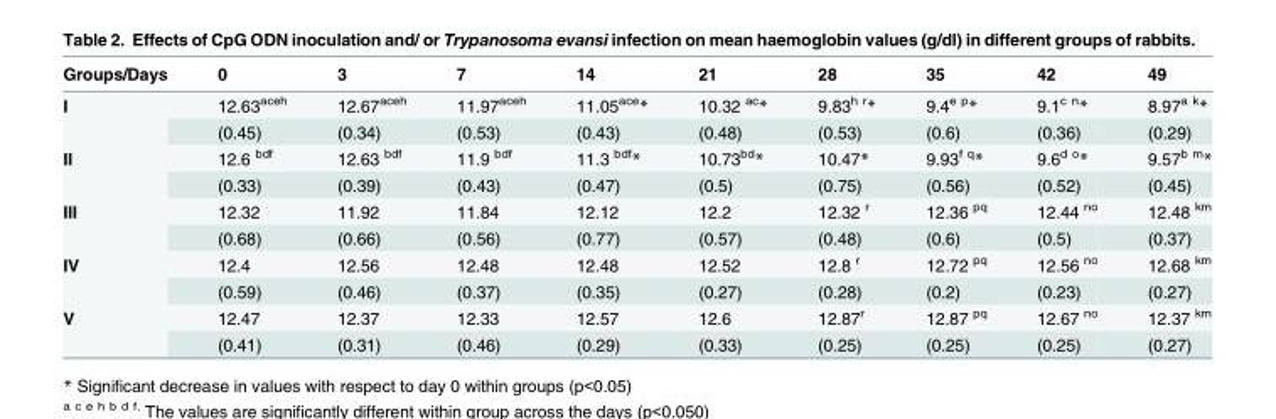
<table><thead><tr><td>Groups/Days</td><td>0</td><td>3</td><td>7</td><td>14</td><td>21</td><td>28</td><td>35</td><td>42</td><td>49</td></tr></thead><tbody><tr><td rowspan="2">I</td><td>12.63<sup>aceh</sup></td><td>12.67<sup>aceh</sup></td><td>11.97<sup>aceh</sup></td><td>11.05<sup>ace</sup>*</td><td>10.32 <sup>ac</sup>*</td><td>9.83<sup>h r</sup>*</td><td>9.4<sup>e p</sup>*</td><td>9.1<sup>c n</sup>*</td><td>8.97<sup>a k</sup>*</td></tr><tr><td>(0.45)</td><td>(0.34)</td><td>(0.53)</td><td>(0.43)</td><td>(0.48)</td><td>(0.53)</td><td>(0.6)</td><td>(0.36)</td><td>(0.29)</td></tr><tr><td rowspan="2">II</td><td>12.6 <sup>bdf</sup></td><td>12.63 <sup>bdf</sup></td><td>11.9 <sup>bdf</sup></td><td>11.3 <sup>bdf</sup>*</td><td>10.73<sup>bd</sup>*</td><td>10.47*</td><td>9.93<sup>f q</sup>*</td><td>9.6<sup>d o</sup>*</td><td>9.57<sup>b m</sup>*</td></tr><tr><td>(0.33)</td><td>(0.39)</td><td>(0.43)</td><td>(0.47)</td><td>(0.5)</td><td>(0.75)</td><td>(0.56)</td><td>(0.52)</td><td>(0.45)</td></tr><tr><td rowspan="2">III</td><td>12.32</td><td>11.92</td><td>11.84</td><td>12.12</td><td>12.2</td><td>12.32 <sup>r</sup></td><td>12.36 <sup>pq</sup></td><td>12.44 <sup>no</sup></td><td>12.48 <sup>km</sup></td></tr><tr><td>(0.68)</td><td>(0.66)</td><td>(0.56)</td><td>(0.77)</td><td>(0.57)</td><td>(0.48)</td><td>(0.6)</td><td>(0.5)</td><td>(0.37)</td></tr><tr><td rowspan="2">IV</td><td>12.4</td><td>12.56</td><td>12.48</td><td>12.48</td><td>12.52</td><td>12.8 <sup>r</sup></td><td>12.72 <sup>pq</sup></td><td>12.56 <sup>no</sup></td><td>12.68 <sup>km</sup></td></tr><tr><td>(0.59)</td><td>(0.46)</td><td>(0.37)</td><td>(0.35)</td><td>(0.27)</td><td>(0.28)</td><td>(0.2)</td><td>(0.23)</td><td>(0.27)</td></tr><tr><td rowspan="2">V</td><td>12.47</td><td>12.37</td><td>12.33</td><td>12.57</td><td>12.6</td><td>12.87<sup>r</sup></td><td>12.87 <sup>pq</sup></td><td>12.67 <sup>no</sup></td><td>12.37 <sup>km</sup></td></tr><tr><td>(0.41)</td><td>(0.31)</td><td>(0.46)</td><td>(0.29)</td><td>(0.33)</td><td>(0.25)</td><td>(0.25)</td><td>(0.25)</td><td>(0.27)</td></tr></tbody></table>